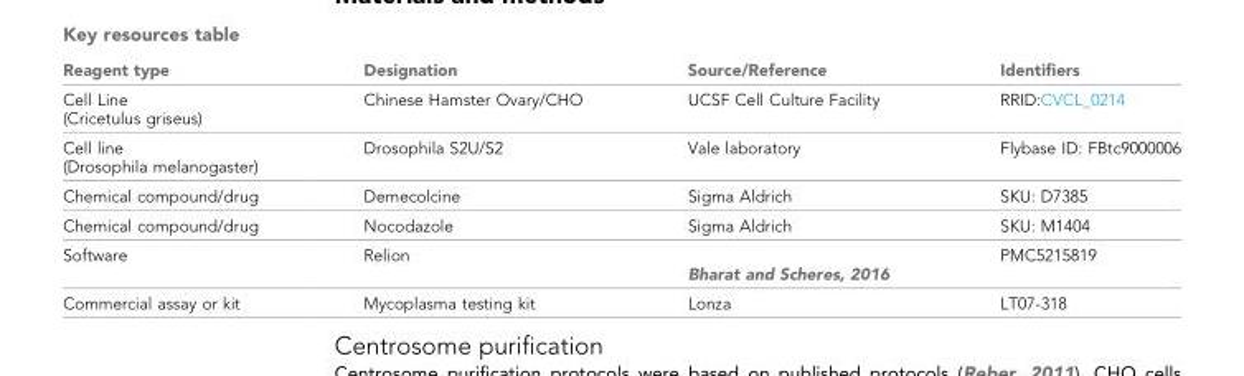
<table><thead><tr><td>Reagent type</td><td>Designation</td><td>Source/Reference</td><td>Identifiers</td></tr></thead><tbody><tr><td>Cell Line (Cricetulus griseus)</td><td>Chinese Hamster Ovary/CHO</td><td>UCSF Cell Culture Facility</td><td>RRID:CVCL_0214</td></tr><tr><td>Cell line (Drosophila melanogaster)</td><td>Drosophila S2U/S2</td><td>Vale laboratory</td><td>Flybase ID: FBtc9000006</td></tr><tr><td>Chemical compound/drug</td><td>Demecolcine</td><td>Sigma Aldrich</td><td>SKU: D7385</td></tr><tr><td>Chemical compound/drug</td><td>Nocodazole</td><td>Sigma Aldrich</td><td>SKU: M1404</td></tr><tr><td>Software</td><td>Relion</td><td>Bharat and Scheres, 2016</td><td>PMC5215819</td></tr><tr><td>Commercial assay or kit</td><td>Mycoplasma testing kit</td><td>Lonza</td><td>LT07-318</td></tr></tbody></table>